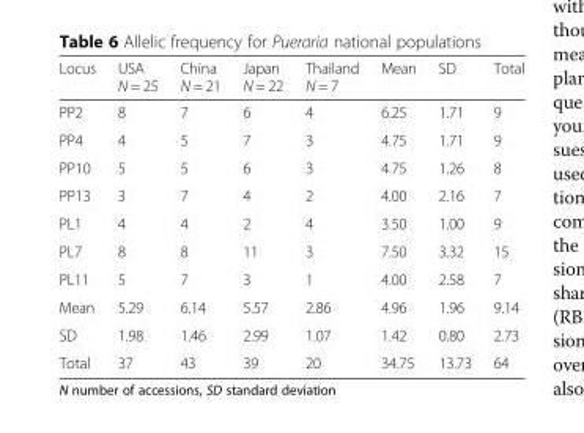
<table><thead><tr><td>Locus</td><td>USA N = 25</td><td>China N = 21</td><td>Japan N = 22</td><td>Thailand N = 7</td><td>Mean</td><td>SD</td><td>Total</td></tr></thead><tbody><tr><td>PP2</td><td>8</td><td>7</td><td>6</td><td>4</td><td>6.25</td><td>1.71</td><td>9</td></tr><tr><td>PP4</td><td>4</td><td>5</td><td>7</td><td>3</td><td>4.75</td><td>1.71</td><td>9</td></tr><tr><td>PP10</td><td>5</td><td>5</td><td>6</td><td>3</td><td>4.75</td><td>1.26</td><td>8</td></tr><tr><td>PP13</td><td>3</td><td>7</td><td>4</td><td>2</td><td>4.00</td><td>2.16</td><td>7</td></tr><tr><td>PL1</td><td>4</td><td>4</td><td>2</td><td>4</td><td>3.50</td><td>1.00</td><td>9</td></tr><tr><td>PL7</td><td>8</td><td>8</td><td>11</td><td>3</td><td>7.50</td><td>3.32</td><td>15</td></tr><tr><td>PL11</td><td>5</td><td>7</td><td>3</td><td>1</td><td>4.00</td><td>2.58</td><td>7</td></tr><tr><td>Mean</td><td>5.29</td><td>6.14</td><td>5.57</td><td>2.86</td><td>4.96</td><td>1.96</td><td>9.14</td></tr><tr><td>SD</td><td>1.98</td><td>1.46</td><td>2.99</td><td>1.07</td><td>1.42</td><td>0.80</td><td>2.73</td></tr><tr><td>Total</td><td>37</td><td>43</td><td>39</td><td>20</td><td>34.75</td><td>13.73</td><td>64</td></tr></tbody></table>